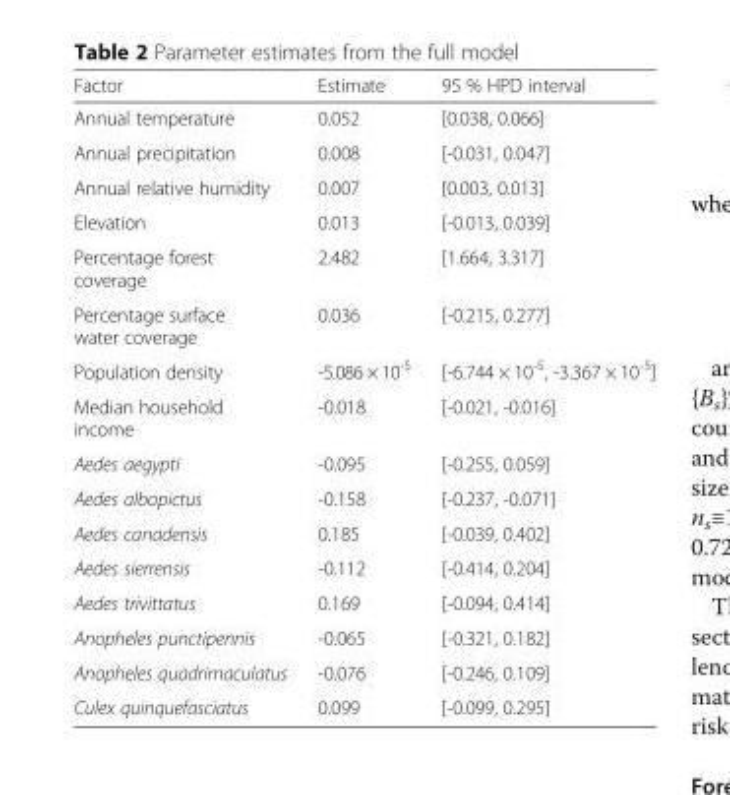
<table><thead><tr><td>Factor</td><td>Estimate</td><td>95 % HPD interval</td></tr></thead><tbody><tr><td>Annual temperature</td><td>0.052</td><td>[0.038, 0.066]</td></tr><tr><td>Annual precipitation</td><td>0.008</td><td>[-0.031, 0.047]</td></tr><tr><td>Annual relative humidity</td><td>0.007</td><td>[0.003, 0.013]</td></tr><tr><td>Elevation</td><td>0.013</td><td>[-0.013, 0.039]</td></tr><tr><td>Percentage forest coverage</td><td>2.482</td><td>[1.664, 3.317]</td></tr><tr><td>Percentage surface water coverage</td><td>0.036</td><td>[-0.215, 0.277]</td></tr><tr><td>Population density</td><td>-5.086 × 10<sup>-5</sup></td><td>[-6.744 × 10<sup>-5</sup>, -3.367 × 10<sup>-5</sup>]</td></tr><tr><td>Median household income</td><td>-0.018</td><td>[-0.021, -0.016]</td></tr><tr><td>Aedes aegypti</td><td>-0.095</td><td>[-0.255, 0.059]</td></tr><tr><td>Aedes albopictus</td><td>-0.158</td><td>[-0.237, -0.071]</td></tr><tr><td>Aedes canadensis</td><td>0.185</td><td>[-0.039, 0.402]</td></tr><tr><td>Aedes sierrensis</td><td>-0.112</td><td>[-0.414, 0.204]</td></tr><tr><td>Aedes trivittatus</td><td>0.169</td><td>[-0.094, 0.414]</td></tr><tr><td>Anopheles punctipennis</td><td>-0.065</td><td>[-0.321, 0.182]</td></tr><tr><td>Anopheles quadrimaculatus</td><td>-0.076</td><td>[-0.246, 0.109]</td></tr><tr><td>Culex quinquefasciatus</td><td>0.099</td><td>[-0.099, 0.295]</td></tr></tbody></table>